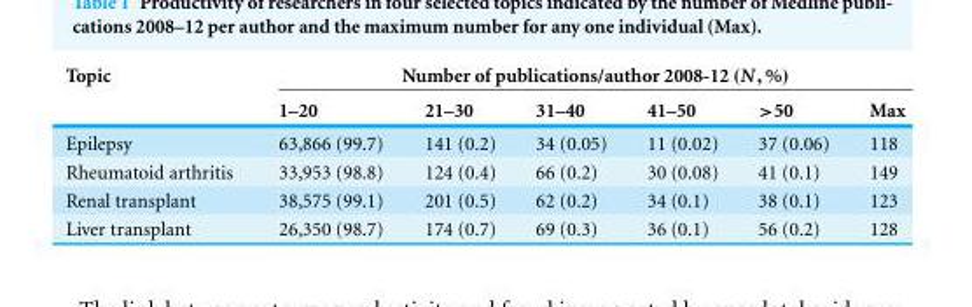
<table><thead><tr><td rowspan="2">Topic</td><td colspan="6">Number of publications/author 2008-12 (N,%)</td></tr><tr><td>1–20</td><td>21–30</td><td>31–40</td><td>41–50</td><td>&gt;50</td><td>Max</td></tr></thead><tbody><tr><td>Epilepsy</td><td>63,866 (99.7)</td><td>141 (0.2)</td><td>34 (0.05)</td><td>11 (0.02)</td><td>37 (0.06)</td><td>118</td></tr><tr><td>Rheumatoid arthritis</td><td>33,953 (98.8)</td><td>124 (0.4)</td><td>66 (0.2)</td><td>30 (0.08)</td><td>41 (0.1)</td><td>149</td></tr><tr><td>Renal transplant</td><td>38,575 (99.1)</td><td>201 (0.5)</td><td>62 (0.2)</td><td>34 (0.1)</td><td>38 (0.1)</td><td>123</td></tr><tr><td>Liver transplant</td><td>26,350 (98.7)</td><td>174 (0.7)</td><td>69 (0.3)</td><td>36 (0.1)</td><td>56 (0.2)</td><td>128</td></tr></tbody></table>